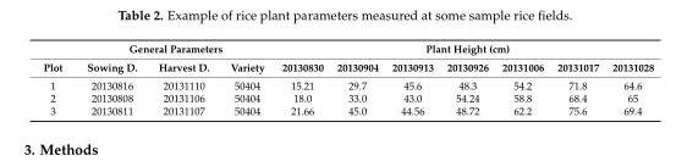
<table><thead><tr><td rowspan="2">Plot</td><td colspan="3">General Parameters</td><td colspan="7">Plant Height (cm)</td></tr><tr><td>Sowing D.</td><td>Harvest D.</td><td>Variety</td><td>20130830</td><td>20130904</td><td>20130913</td><td>20130926</td><td>20131006</td><td>20131017</td><td>20131028</td></tr></thead><tbody><tr><td>1</td><td>20130816</td><td>20131110</td><td>50404</td><td>15.21</td><td>29.7</td><td>45.6</td><td>48.3</td><td>54.2</td><td>71.8</td><td>64.6</td></tr><tr><td>2</td><td>20130808</td><td>20131106</td><td>50404</td><td>18.0</td><td>33.0</td><td>43.0</td><td>54.24</td><td>58.8</td><td>68.4</td><td>65</td></tr><tr><td>3</td><td>20130811</td><td>20131107</td><td>50404</td><td>21.66</td><td>45.0</td><td>44.56</td><td>48.72</td><td>62.2</td><td>75.6</td><td>69.4</td></tr></tbody></table>